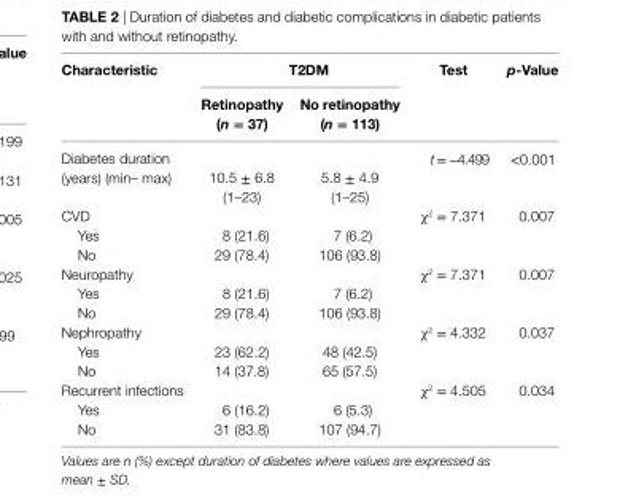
<table><thead><tr><td rowspan="2">characteristic</td><td colspan="2">T2DM</td><td rowspan="2">Test</td><td rowspan="2">p-Value</td></tr><tr><td>retinopathy (n = 37)</td><td>no retinopathy (n = 113)</td></tr></thead><tbody><tr><td>Diabetes duration (years) (min– max)</td><td>10.5 ± 6.8 (1–23)</td><td>5.8 ± 4.9 (1–25)</td><td>t = −4.499</td><td>&lt;0.001</td></tr><tr><td colspan="3">CVD</td><td rowspan="3">χ<sup>2</sup> = 7.371</td><td rowspan="3">0.007</td></tr><tr><td>Yes</td><td>8 (21.6)</td><td>7 (6.2)</td></tr><tr><td>No</td><td>29 (78.4)</td><td>106 (93.8)</td></tr><tr><td colspan="3">Neuropathy</td><td rowspan="3">χ<sup>2</sup> = 7.371</td><td rowspan="3">0.007</td></tr><tr><td>Yes</td><td>8 (21.6)</td><td>7 (6.2)</td></tr><tr><td>No</td><td>29 (78.4)</td><td>106 (93.8)</td></tr><tr><td colspan="3">Nephropathy</td><td rowspan="3">χ<sup>2</sup> = 4.332</td><td rowspan="3">0.037</td></tr><tr><td>Yes</td><td>23 (62.2)</td><td>48 (42.5)</td></tr><tr><td>No</td><td>14 (37.8)</td><td>65 (57.5)</td></tr><tr><td colspan="3">Recurrent infections</td><td rowspan="3">χ<sup>2</sup> = 4.505</td><td rowspan="3">0.034</td></tr><tr><td>Yes</td><td>6 (16.2)</td><td>6 (5.3)</td></tr><tr><td>No</td><td>31 (83.8)</td><td>107 (94.7)</td></tr></tbody></table>